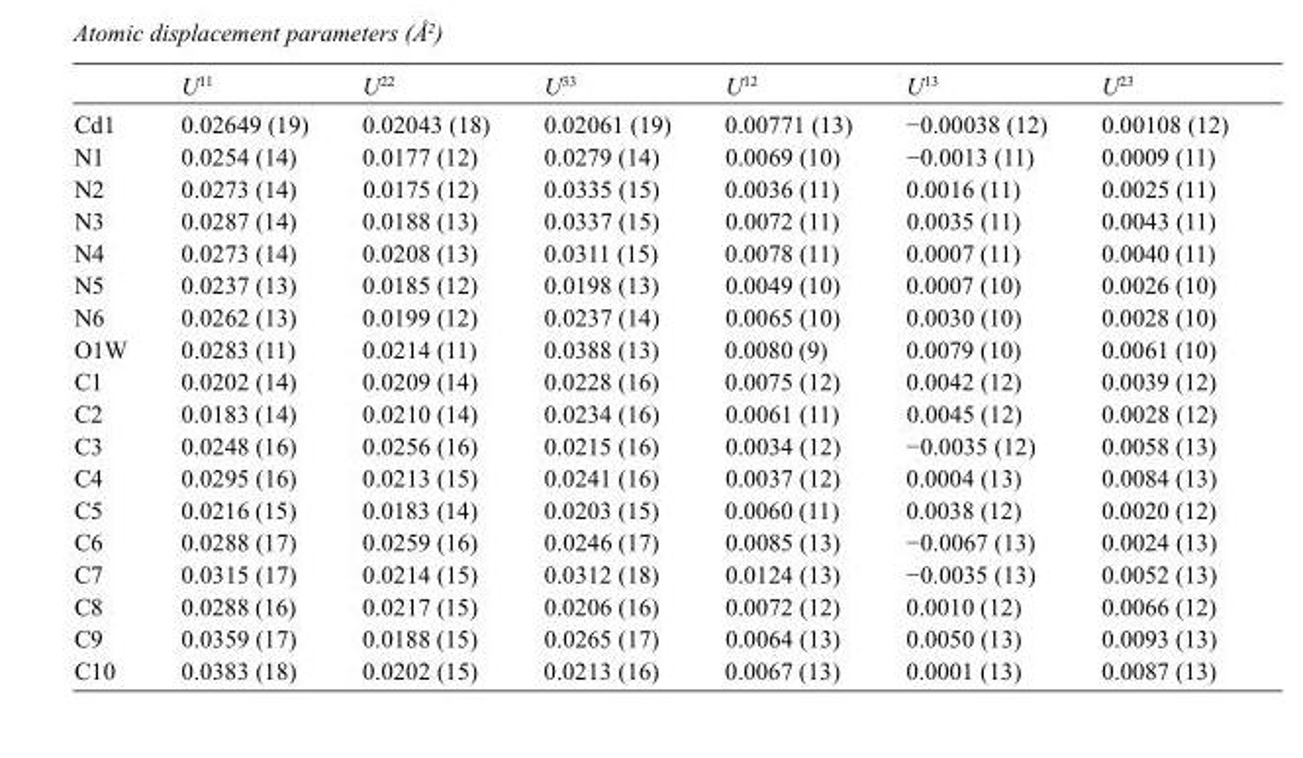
<table><thead><tr><td></td><td>U<sup>11</sup></td><td>U<sup>22</sup></td><td>U<sup>33</sup></td><td>U<sup>12</sup></td><td>U<sup>13</sup></td><td>U<sup>23</sup></td></tr></thead><tbody><tr><td>Cd1</td><td>0.02649 (19)</td><td>0.02043 (18)</td><td>0.02061 (19)</td><td>0.00771 (13)</td><td>−0.00038 (12)</td><td>0.00108 (12)</td></tr><tr><td>N1</td><td>0.0254 (14)</td><td>0.0177 (12)</td><td>0.0279 (14)</td><td>0.0069 (10)</td><td>−0.0013 (11)</td><td>0.0009 (11)</td></tr><tr><td>N2</td><td>0.0273 (14)</td><td>0.0175 (12)</td><td>0.0335 (15)</td><td>0.0036 (11)</td><td>0.0016 (11)</td><td>0.0025 (11)</td></tr><tr><td>N3</td><td>0.0287 (14)</td><td>0.0188 (13)</td><td>0.0337 (15)</td><td>0.0072 (11)</td><td>0.0035 (11)</td><td>0.0043 (11)</td></tr><tr><td>N4</td><td>0.0273 (14)</td><td>0.0208 (13)</td><td>0.0311 (15)</td><td>0.0078 (11)</td><td>0.0007 (11)</td><td>0.0040 (11)</td></tr><tr><td>N5</td><td>0.0237 (13)</td><td>0.0185 (12)</td><td>0.0198 (13)</td><td>0.0049 (10)</td><td>0.0007 (10)</td><td>0.0026 (10)</td></tr><tr><td>N6</td><td>0.0262 (13)</td><td>0.0199 (12)</td><td>0.0237 (14)</td><td>0.0065 (10)</td><td>0.0030 (10)</td><td>0.0028 (10)</td></tr><tr><td>O1W</td><td>0.0283 (11)</td><td>0.0214 (11)</td><td>0.0388 (13)</td><td>0.0080 (9)</td><td>0.0079 (10)</td><td>0.0061 (10)</td></tr><tr><td>C1</td><td>0.0202 (14)</td><td>0.0209 (14)</td><td>0.0228 (16)</td><td>0.0075 (12)</td><td>0.0042 (12)</td><td>0.0039 (12)</td></tr><tr><td>C2</td><td>0.0183 (14)</td><td>0.0210 (14)</td><td>0.0234 (16)</td><td>0.0061 (11)</td><td>0.0045 (12)</td><td>0.0028 (12)</td></tr><tr><td>C3</td><td>0.0248 (16)</td><td>0.0256 (16)</td><td>0.0215 (16)</td><td>0.0034 (12)</td><td>−0.0035 (12)</td><td>0.0058 (13)</td></tr><tr><td>C4</td><td>0.0295 (16)</td><td>0.0213 (15)</td><td>0.0241 (16)</td><td>0.0037 (12)</td><td>0.0004 (13)</td><td>0.0084 (13)</td></tr><tr><td>C5</td><td>0.0216 (15)</td><td>0.0183 (14)</td><td>0.0203 (15)</td><td>0.0060 (11)</td><td>0.0038 (12)</td><td>0.0020 (12)</td></tr><tr><td>C6</td><td>0.0288 (17)</td><td>0.0259 (16)</td><td>0.0246 (17)</td><td>0.0085 (13)</td><td>−0.0067 (13)</td><td>0.0024 (13)</td></tr><tr><td>C7</td><td>0.0315 (17)</td><td>0.0214 (15)</td><td>0.0312 (18)</td><td>0.0124 (13)</td><td>−0.0035 (13)</td><td>0.0052 (13)</td></tr><tr><td>C8</td><td>0.0288 (16)</td><td>0.0217 (15)</td><td>0.0206 (16)</td><td>0.0072 (12)</td><td>0.0010 (12)</td><td>0.0066 (12)</td></tr><tr><td>C9</td><td>0.0359 (17)</td><td>0.0188 (15)</td><td>0.0265 (17)</td><td>0.0064 (13)</td><td>0.0050 (13)</td><td>0.0093 (13)</td></tr><tr><td>C10</td><td>0.0383 (18)</td><td>0.0202 (15)</td><td>0.0213 (16)</td><td>0.0067 (13)</td><td>0.0001 (13)</td><td>0.0087 (13)</td></tr></tbody></table>